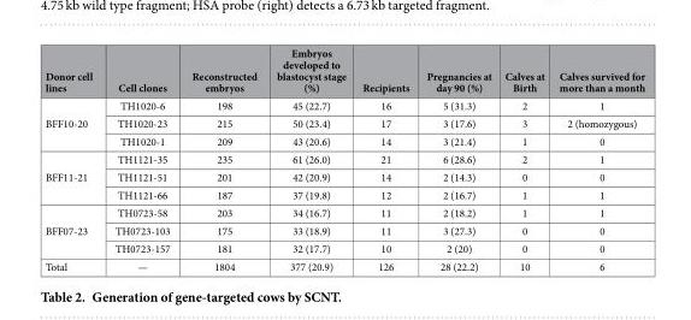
<table><thead><tr><td>Donor cell lines</td><td>Cell clones</td><td>Reconstructed embryos</td><td>Embryos developed to blastocyst stage (%)</td><td>Recipients</td><td>Pregnancies at day 90 (%)</td><td>Calves at Birth</td><td>Calves survived for more than a month</td></tr></thead><tbody><tr><td rowspan="3">BFF10-20</td><td>TH1020-6</td><td>198</td><td>45 (22.7)</td><td>16</td><td>5 (31.3)</td><td>2</td><td>1</td></tr><tr><td>TH1020-23</td><td>215</td><td>50 (23.4)</td><td>17</td><td>3 (17.6)</td><td>3</td><td>2 (homozygous)</td></tr><tr><td>TH1020-1</td><td>209</td><td>43 (20.6)</td><td>14</td><td>3 (21.4)</td><td>1</td><td>0</td></tr><tr><td rowspan="3">BFF11-21</td><td>TH1121-35</td><td>235</td><td>61 (26.0)</td><td>21</td><td>6 (28.6)</td><td>2</td><td>1</td></tr><tr><td>TH1121-51</td><td>201</td><td>42 (20.9)</td><td>14</td><td>2 (14.3)</td><td>0</td><td>0</td></tr><tr><td>TH1121-66</td><td>187</td><td>37 (19.8)</td><td>12</td><td>2 (16.7)</td><td>1</td><td>1</td></tr><tr><td rowspan="3">BFF07-23</td><td>TH0723-58</td><td>203</td><td>34 (16.7)</td><td>11</td><td>2 (18.2)</td><td>1</td><td>1</td></tr><tr><td>TH0723-103</td><td>175</td><td>33 (18.9)</td><td>11</td><td>3 (27.3)</td><td>0</td><td>0</td></tr><tr><td>TH0723-157</td><td>181</td><td>32 (17.7)</td><td>10</td><td>2 (20)</td><td>0</td><td>0</td></tr><tr><td>Total</td><td>—</td><td>1804</td><td>377 (20.9)</td><td>126</td><td>28 (22.2)</td><td>10</td><td>6</td></tr></tbody></table>